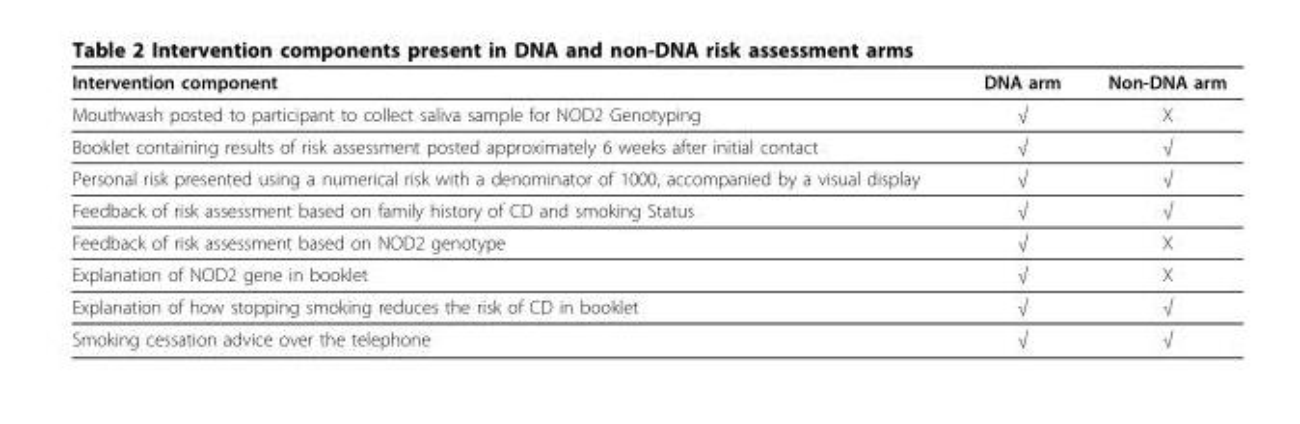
<table><thead><tr><td>Intervention component</td><td>DNA arm</td><td>Non-DNA arm</td></tr></thead><tbody><tr><td>Mouthwash posted to participant to collect saliva sample for NOD2 Genotyping</td><td>√</td><td>X</td></tr><tr><td>Booklet containing results of risk assessment posted approximately 6 weeks after initial contact</td><td>√</td><td>√</td></tr><tr><td>Personal risk presented using a numerical risk with a denominator of 1000, accompanied by a visual display</td><td>√</td><td>√</td></tr><tr><td>Feedback of risk assessment based on family history of CD and smoking Status</td><td>√</td><td>√</td></tr><tr><td>Feedback of risk assessment based on NOD2 genotype</td><td>√</td><td>X</td></tr><tr><td>Explanation of NOD2 gene in booklet</td><td>√</td><td>X</td></tr><tr><td>Explanation of how stopping smoking reduces the risk of CD in booklet</td><td>√</td><td>√</td></tr><tr><td>Smoking cessation advice over the telephone</td><td>√</td><td>√</td></tr></tbody></table>